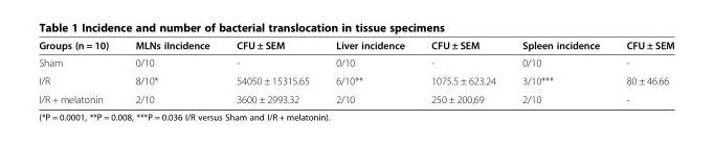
<table><thead><tr><td>Groups (n = 10)</td><td>MLNs iIncidence</td><td>CFU ± SEM</td><td>Liver incidence</td><td>CFU ± SEM</td><td>Spleen incidence</td><td>CFU ± SEM</td></tr></thead><tbody><tr><td>Sham</td><td>0/10</td><td>-</td><td>0/10</td><td>-</td><td>0/10</td><td>-</td></tr><tr><td>I/R</td><td>8/10*</td><td>54050 ± 15315.65</td><td>6/10**</td><td>1075.5 ± 623.24</td><td>3/10***</td><td>80 ± 46.66</td></tr><tr><td>I/R + melatonin</td><td>2/10</td><td>3600 ± 2993.32</td><td>2/10</td><td>250 ± 200,69</td><td>2/10</td><td>-</td></tr></tbody></table>